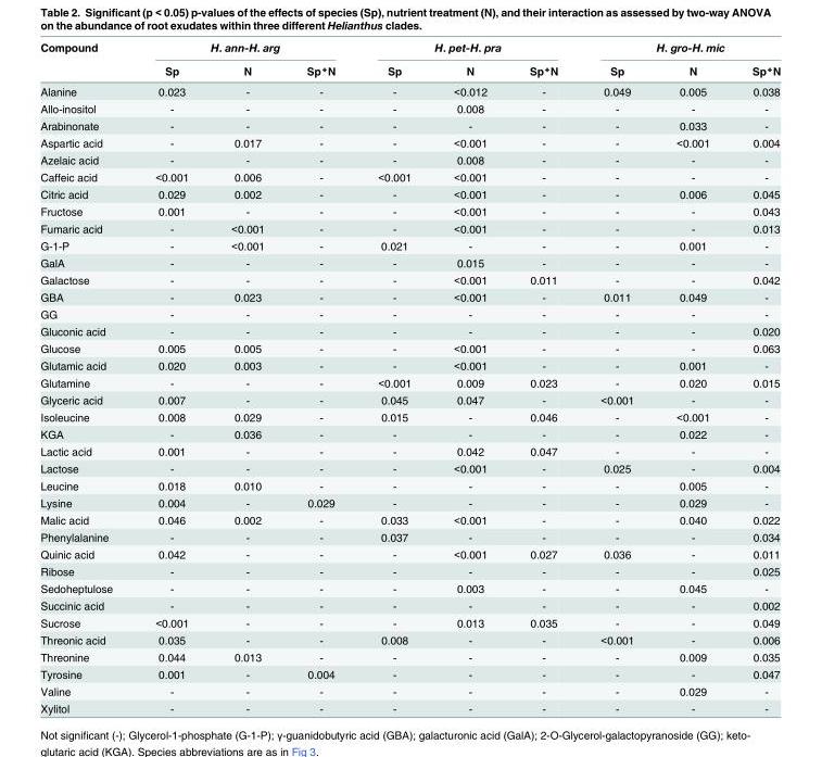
<table><thead><tr><td rowspan="2">Compound</td><td colspan="3">H. ann-H. arg</td><td colspan="3">H. pet-H. pra</td><td colspan="3">H. gro-H. mic</td></tr><tr><td>Sp</td><td>N</td><td>Sp*N</td><td>Sp</td><td>N</td><td>Sp*N</td><td>Sp</td><td>N</td><td>Sp*N</td></tr></thead><tbody><tr><td>Alanine</td><td>0.023</td><td>-</td><td>-</td><td>-</td><td>&lt;0.012</td><td>-</td><td>0.049</td><td>0.005</td><td>0.038</td></tr><tr><td>Allo-inositol</td><td>-</td><td>-</td><td>-</td><td>-</td><td>0.008</td><td>-</td><td>-</td><td>-</td><td>-</td></tr><tr><td>Arabinonate</td><td>-</td><td>-</td><td>-</td><td>-</td><td>-</td><td>-</td><td>-</td><td>0.033</td><td>-</td></tr><tr><td>Aspartic acid</td><td>-</td><td>0.017</td><td>-</td><td>-</td><td>&lt;0.001</td><td>-</td><td>-</td><td>&lt;0.001</td><td>0.004</td></tr><tr><td>Azelaic acid</td><td>-</td><td>-</td><td>-</td><td>-</td><td>0.008</td><td>-</td><td>-</td><td>-</td><td>-</td></tr><tr><td>Caffeic acid</td><td>&lt;0.001</td><td>0.006</td><td>-</td><td>&lt;0.001</td><td>&lt;0.001</td><td>-</td><td>-</td><td>-</td><td>-</td></tr><tr><td>Citric acid</td><td>0.029</td><td>0.002</td><td>-</td><td>-</td><td>&lt;0.001</td><td>-</td><td>-</td><td>0.006</td><td>0.045</td></tr><tr><td>Fructose</td><td>0.001</td><td>-</td><td>-</td><td>-</td><td>&lt;0.001</td><td>-</td><td>-</td><td>-</td><td>0.043</td></tr><tr><td>Fumaric acid</td><td>-</td><td>&lt;0.001</td><td>-</td><td>-</td><td>&lt;0.001</td><td>-</td><td>-</td><td>-</td><td>0.013</td></tr><tr><td>G-1-P</td><td>-</td><td>&lt;0.001</td><td>-</td><td>0.021</td><td>-</td><td>-</td><td>-</td><td>0.001</td><td>-</td></tr><tr><td>GalA</td><td>-</td><td>-</td><td>-</td><td>-</td><td>0.015</td><td>-</td><td>-</td><td>-</td><td>-</td></tr><tr><td>Galactose</td><td>-</td><td>-</td><td>-</td><td>-</td><td>&lt;0.001</td><td>0.011</td><td>-</td><td>-</td><td>0.042</td></tr><tr><td>GBA</td><td>-</td><td>0.023</td><td>-</td><td>-</td><td>&lt;0.001</td><td>-</td><td>0.011</td><td>0.049</td><td>-</td></tr><tr><td>GG</td><td>-</td><td>-</td><td>-</td><td>-</td><td>-</td><td>-</td><td>-</td><td>-</td><td>-</td></tr><tr><td>Gluconic acid</td><td>-</td><td>-</td><td>-</td><td>-</td><td>-</td><td>-</td><td>-</td><td>-</td><td>0.020</td></tr><tr><td>Glucose</td><td>0.005</td><td>0.005</td><td>-</td><td>-</td><td>&lt;0.001</td><td>-</td><td>-</td><td>-</td><td>0.063</td></tr><tr><td>Glutamic acid</td><td>0.020</td><td>0.003</td><td>-</td><td>-</td><td>&lt;0.001</td><td>-</td><td>-</td><td>0.001</td><td>-</td></tr><tr><td>Glutamine</td><td>-</td><td>-</td><td>-</td><td>&lt;0.001</td><td>0.009</td><td>0.023</td><td>-</td><td>0.020</td><td>0.015</td></tr><tr><td>Glyceric acid</td><td>0.007</td><td>-</td><td>-</td><td>0.045</td><td>0.047</td><td>-</td><td>&lt;0.001</td><td>-</td><td>-</td></tr><tr><td>Isoleucine</td><td>0.008</td><td>0.029</td><td>-</td><td>0.015</td><td>-</td><td>0.046</td><td>-</td><td>&lt;0.001</td><td>-</td></tr><tr><td>KGA</td><td>-</td><td>0.036</td><td>-</td><td>-</td><td>-</td><td>-</td><td>-</td><td>0.022</td><td>-</td></tr><tr><td>Lactic acid</td><td>0.001</td><td>-</td><td>-</td><td>-</td><td>0.042</td><td>0.047</td><td>-</td><td>-</td><td>-</td></tr><tr><td>Lactose</td><td>-</td><td>-</td><td>-</td><td>-</td><td>&lt;0.001</td><td>-</td><td>0.025</td><td>-</td><td>0.004</td></tr><tr><td>Leucine</td><td>0.018</td><td>0.010</td><td>-</td><td>-</td><td>-</td><td>-</td><td>-</td><td>0.005</td><td>-</td></tr><tr><td>Lysine</td><td>0.004</td><td>-</td><td>0.029</td><td>-</td><td>-</td><td>-</td><td>-</td><td>0.029</td><td>-</td></tr><tr><td>Malic acid</td><td>0.046</td><td>0.002</td><td>-</td><td>0.033</td><td>&lt;0.001</td><td>-</td><td>-</td><td>0.040</td><td>0.022</td></tr><tr><td>Phenylalanine</td><td>-</td><td>-</td><td>-</td><td>0.037</td><td>-</td><td>-</td><td>-</td><td>-</td><td>0.034</td></tr><tr><td>Quinic acid</td><td>0.042</td><td>-</td><td>-</td><td>-</td><td>&lt;0.001</td><td>0.027</td><td>0.036</td><td>-</td><td>0.011</td></tr><tr><td>Ribose</td><td>-</td><td>-</td><td>-</td><td>-</td><td>-</td><td>-</td><td>-</td><td>-</td><td>0.025</td></tr><tr><td>Sedoheptulose</td><td>-</td><td>-</td><td>-</td><td>-</td><td>0.003</td><td>-</td><td>-</td><td>0.045</td><td>-</td></tr><tr><td>Succinic acid</td><td>-</td><td>-</td><td>-</td><td>-</td><td>-</td><td>-</td><td>-</td><td>-</td><td>0.002</td></tr><tr><td>Sucrose</td><td>&lt;0.001</td><td>-</td><td>-</td><td>-</td><td>0.013</td><td>0.035</td><td>-</td><td>-</td><td>0.049</td></tr><tr><td>Threonic acid</td><td>0.035</td><td>-</td><td>-</td><td>0.008</td><td>-</td><td>-</td><td>&lt;0.001</td><td>-</td><td>0.006</td></tr><tr><td>Threonine</td><td>0.044</td><td>0.013</td><td>-</td><td>-</td><td>-</td><td>-</td><td>-</td><td>0.009</td><td>0.035</td></tr><tr><td>Tyrosine</td><td>0.001</td><td>-</td><td>0.004</td><td>-</td><td>-</td><td>-</td><td>-</td><td>-</td><td>0.047</td></tr><tr><td>Valine</td><td>-</td><td>-</td><td>-</td><td>-</td><td>-</td><td>-</td><td>-</td><td>0.029</td><td>-</td></tr><tr><td>Xylitol</td><td>-</td><td>-</td><td>-</td><td>-</td><td>-</td><td>-</td><td>-</td><td>-</td><td>-</td></tr></tbody></table>